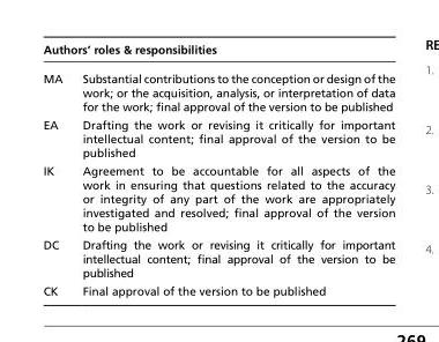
<table><thead><tr><td colspan="2">Authors’ roles &amp; responsibilities</td></tr><tr><td>MA</td><td>Substantial contributions to the conception or design of the work; or the acquisition, analysis, or interpretation of data for the work; final approval of the version to be published</td></tr></thead><tbody><tr><td>EA</td><td>Drafting the work or revising it critically for important intellectual content; final approval of the version to be published</td></tr><tr><td>IK</td><td>Agreement to be accountable for all aspects of the work in ensuring that questions related to the accuracy or integrity of any part of the work are appropriately investigated and resolved; final approval of the version to be published</td></tr><tr><td>DC</td><td>Drafting the work or revising it critically for important intellectual content; final approval of the version to be published</td></tr><tr><td>CK</td><td>Final approval of the version to be published</td></tr></tbody></table>